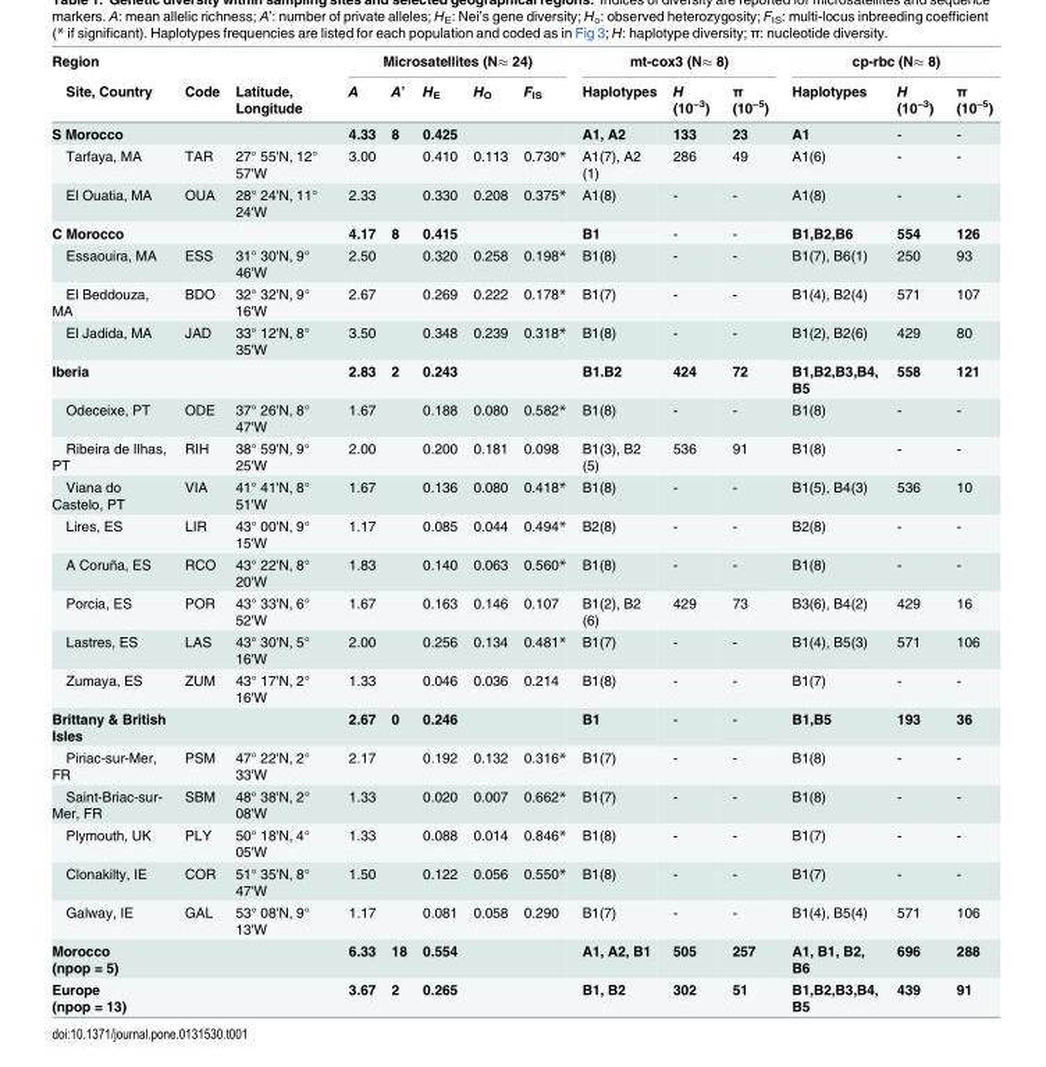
<table><thead><tr><td rowspan="2">Region Site, Country</td><td rowspan="2">Code</td><td rowspan="2">Latitude, Longitude</td><td colspan="5">Microsatellites (N≈ 24)</td><td colspan="3">mt-cox3 (N≈ 8)</td><td colspan="3">cp-rbc (N≈ 8)</td></tr><tr><td>A</td><td>A’</td><td>H<sub>E</sub></td><td>H<sub>O</sub></td><td>F<sub>IS</sub></td><td>Haplotypes</td><td>H (10<sup>−3</sup>)</td><td>π (10<sup>−5</sup>)</td><td>Haplotypes</td><td>H (10<sup>−3</sup>)</td><td>π (10<sup>−5</sup>)</td></tr></thead><tbody><tr><td>S Morocco</td><td></td><td></td><td>4.33</td><td>8</td><td>0.425</td><td></td><td></td><td>A1, A2</td><td>133</td><td>23</td><td>A1</td><td>-</td><td>-</td></tr><tr><td>Tarfaya, MA</td><td>TAR</td><td>27° 55&#x27;N, 12° 57&#x27;W</td><td>3.00</td><td></td><td>0.410</td><td>0.113</td><td>0.730*</td><td>A1(7), A2 (1)</td><td>286</td><td>49</td><td>A1(6)</td><td>-</td><td>-</td></tr><tr><td>El Ouatia, MA</td><td>OUA</td><td>28° 24&#x27;N, 11° 24&#x27;W</td><td>2.33</td><td></td><td>0.330</td><td>0.208</td><td>0.375*</td><td>A1(8)</td><td>-</td><td>-</td><td>A1(8)</td><td>-</td><td>-</td></tr><tr><td>C Morocco</td><td></td><td></td><td>4.17</td><td>8</td><td>0.415</td><td></td><td></td><td>B1</td><td>-</td><td>-</td><td>B1,B2,B6</td><td>554</td><td>126</td></tr><tr><td>Essaouira, MA</td><td>ESS</td><td>31° 30&#x27;N, 9° 46&#x27;W</td><td>2.50</td><td></td><td>0.320</td><td>0.258</td><td>0.198*</td><td>B1(8)</td><td>-</td><td>-</td><td>B1(7), B6(1)</td><td>250</td><td>93</td></tr><tr><td>El Beddouza, MA</td><td>BDO</td><td>32° 32&#x27;N, 9° 16&#x27;W</td><td>2.67</td><td></td><td>0.269</td><td>0.222</td><td>0.178*</td><td>B1(7)</td><td>-</td><td>-</td><td>B1(4), B2(4)</td><td>571</td><td>107</td></tr><tr><td>El Jadida, MA</td><td>JAD</td><td>33° 12&#x27;N, 8° 35&#x27;W</td><td>3.50</td><td></td><td>0.348</td><td>0.239</td><td>0.318*</td><td>B1(8)</td><td>-</td><td>-</td><td>B1(2), B2(6)</td><td>429</td><td>80</td></tr><tr><td>Iberia</td><td></td><td></td><td>2.83</td><td>2</td><td>0.243</td><td></td><td></td><td>B1.B2</td><td>424</td><td>72</td><td>B1,B2,B3,B4, B5</td><td>558</td><td>121</td></tr><tr><td>Odeceixe, PT</td><td>ODE</td><td>37° 26&#x27;N, 8° 47&#x27;W</td><td>1.67</td><td></td><td>0.188</td><td>0.080</td><td>0.582*</td><td>B1(8)</td><td>-</td><td>-</td><td>B1(8)</td><td>-</td><td>-</td></tr><tr><td>Ribeira de Ilhas, PT</td><td>RIH</td><td>38° 59&#x27;N, 9° 25&#x27;W</td><td>2.00</td><td></td><td>0.200</td><td>0.181</td><td>0.098</td><td>B1(3), B2 (5)</td><td>536</td><td>91</td><td>B1(8)</td><td>-</td><td>-</td></tr><tr><td>Viana do Castelo, PT</td><td>VIA</td><td>41° 41&#x27;N, 8° 51&#x27;W</td><td>1.67</td><td></td><td>0.136</td><td>0.080</td><td>0.418*</td><td>B1(8)</td><td>-</td><td>-</td><td>B1(5), B4(3)</td><td>536</td><td>10</td></tr><tr><td>Lires, ES</td><td>LIR</td><td>43° 00&#x27;N, 9° 15&#x27;W</td><td>1.17</td><td></td><td>0.085</td><td>0.044</td><td>0.494*</td><td>B2(8)</td><td>-</td><td>-</td><td>B2(8)</td><td>-</td><td>-</td></tr><tr><td>A Coruña, ES</td><td>RCO</td><td>43° 22&#x27;N, 8° 20&#x27;W</td><td>1.83</td><td></td><td>0.140</td><td>0.063</td><td>0.560*</td><td>B1(8)</td><td>-</td><td>-</td><td>B1(8)</td><td>-</td><td>-</td></tr><tr><td>Porcia, ES</td><td>POR</td><td>43° 33&#x27;N, 6° 52&#x27;W</td><td>1.67</td><td></td><td>0.163</td><td>0.146</td><td>0.107</td><td>B1(2), B2 (6)</td><td>429</td><td>73</td><td>B3(6), B4(2)</td><td>429</td><td>16</td></tr><tr><td>Lastres, ES</td><td>LAS</td><td>43° 30&#x27;N, 5° 16&#x27;W</td><td>2.00</td><td></td><td>0.256</td><td>0.134</td><td>0.481*</td><td>B1(7)</td><td>-</td><td>-</td><td>B1(4), B5(3)</td><td>571</td><td>106</td></tr><tr><td>Zumaya, ES</td><td>ZUM</td><td>43° 17&#x27;N, 2° 16&#x27;W</td><td>1.33</td><td></td><td>0.046</td><td>0.036</td><td>0.214</td><td>B1(8)</td><td>-</td><td>-</td><td>B1(7)</td><td>-</td><td>-</td></tr><tr><td>Brittany &amp; British Isles</td><td></td><td></td><td>2.67</td><td>0</td><td>0.246</td><td></td><td></td><td>B1</td><td>-</td><td>-</td><td>B1,B5</td><td>193</td><td>36</td></tr><tr><td>Piriac-sur-Mer, FR</td><td>PSM</td><td>47° 22&#x27;N, 2° 33&#x27;W</td><td>2.17</td><td></td><td>0.192</td><td>0.132</td><td>0.316*</td><td>B1(7)</td><td>-</td><td>-</td><td>B1(8)</td><td>-</td><td>-</td></tr><tr><td>Saint-Briac-sur- Mer, FR</td><td>SBM</td><td>48° 38&#x27;N, 2° 08&#x27;W</td><td>1.33</td><td></td><td>0.020</td><td>0.007</td><td>0.662*</td><td>B1(7)</td><td>-</td><td>-</td><td>B1(8)</td><td>-</td><td>-</td></tr><tr><td>Plymouth, UK</td><td>PLY</td><td>50° 18&#x27;N, 4° 05&#x27;W</td><td>1.33</td><td></td><td>0.088</td><td>0.014</td><td>0.846*</td><td>B1(8)</td><td>-</td><td>-</td><td>B1(7)</td><td>-</td><td>-</td></tr><tr><td>Clonakilty, IE</td><td>COR</td><td>51° 35&#x27;N, 8° 47&#x27;W</td><td>1.50</td><td></td><td>0.122</td><td>0.056</td><td>0.550*</td><td>B1(8)</td><td>-</td><td>-</td><td>B1(7)</td><td>-</td><td>-</td></tr><tr><td>Galway, IE</td><td>GAL</td><td>53° 08&#x27;N, 9° 13&#x27;W</td><td>1.17</td><td></td><td>0.081</td><td>0.058</td><td>0.290</td><td>B1(7)</td><td>-</td><td>-</td><td>B1(4), B5(4)</td><td>571</td><td>106</td></tr><tr><td>Morocco (npop = 5)</td><td></td><td></td><td>6.33</td><td>18</td><td>0.554</td><td></td><td></td><td>A1, A2, B1</td><td>505</td><td>257</td><td>A1, B1, B2, B6</td><td>696</td><td>288</td></tr><tr><td>Europe (npop = 13)</td><td></td><td></td><td>3.67</td><td>2</td><td>0.265</td><td></td><td></td><td>B1, B2</td><td>302</td><td>51</td><td>B1,B2,B3,B4, B5</td><td>439</td><td>91</td></tr></tbody></table>